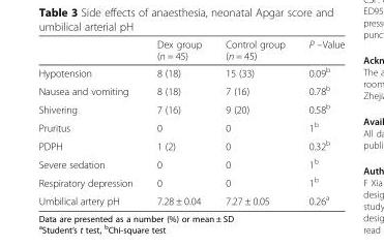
<table><thead><tr><td></td><td>Dex group (n = 45)</td><td>Control group (n = 45)</td><td>P –Value</td></tr></thead><tbody><tr><td>Hypotension</td><td>8 (18)</td><td>15 (33)</td><td>0.09<sup>b</sup></td></tr><tr><td>Nausea and vomiting</td><td>8 (18)</td><td>7 (16)</td><td>0.78<sup>b</sup></td></tr><tr><td>Shivering</td><td>7 (16)</td><td>9 (20)</td><td>0.58<sup>b</sup></td></tr><tr><td>Pruritus</td><td>0</td><td>0</td><td>1<sup>b</sup></td></tr><tr><td>PDPH</td><td>1 (2)</td><td>0</td><td>0.32<sup>b</sup></td></tr><tr><td>Severe sedation</td><td>0</td><td>0</td><td>1<sup>b</sup></td></tr><tr><td>Respiratory depression</td><td>0</td><td>0</td><td>1<sup>b</sup></td></tr><tr><td>Umbilical artery pH</td><td>7.28 ± 0.04</td><td>7.27 ± 0.05</td><td>0.26<sup>a</sup></td></tr></tbody></table>